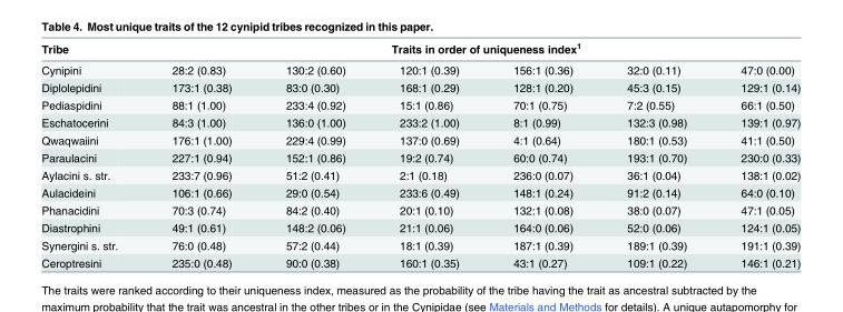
<table><thead><tr><td rowspan="2">Tribe Cynipini</td><td colspan="6">Traits in order of uniqueness index<sup>1</sup></td></tr><tr><td>28:2 (0.83)</td><td>130:2 (0.60)</td><td>120:1 (0.39)</td><td>156:1 (0.36)</td><td>32:0 (0.11)</td><td>47:0 (0.00)</td></tr></thead><tbody><tr><td>Diplolepidini</td><td>173:1 (0.38)</td><td>83:0 (0.30)</td><td>168:1 (0.29)</td><td>128:1 (0.20)</td><td>45:3 (0.15)</td><td>129:1 (0.14)</td></tr><tr><td>Pediaspidini</td><td>88:1 (1.00)</td><td>233:4 (0.92)</td><td>15:1 (0.86)</td><td>70:1 (0.75)</td><td>7:2 (0.55)</td><td>66:1 (0.50)</td></tr><tr><td>Eschatocerini</td><td>84:3 (1.00)</td><td>136:0 (1.00)</td><td>233:2 (1.00)</td><td>8:1 (0.99)</td><td>132:3 (0.98)</td><td>139:1 (0.97)</td></tr><tr><td>Qwaqwaiini</td><td>176:1 (1.00)</td><td>229:4 (0.99)</td><td>137:0 (0.69)</td><td>4:1 (0.64)</td><td>180:1 (0.53)</td><td>41:1 (0.50)</td></tr><tr><td>Paraulacini</td><td>227:1 (0.94)</td><td>152:1 (0.86)</td><td>19:2 (0.74)</td><td>60:0 (0.74)</td><td>193:1 (0.70)</td><td>230:0 (0.33)</td></tr><tr><td>Aylacini s. str.</td><td>233:7 (0.96)</td><td>51:2 (0.41)</td><td>2:1 (0.18)</td><td>236:0 (0.07)</td><td>36:1 (0.04)</td><td>138:1 (0.02)</td></tr><tr><td>Aulacideini</td><td>106:1 (0.66)</td><td>29:0 (0.54)</td><td>233:6 (0.49)</td><td>148:1 (0.24)</td><td>91:2 (0.14)</td><td>64:0 (0.10)</td></tr><tr><td>Phanacidini</td><td>70:3 (0.74)</td><td>84:2 (0.40)</td><td>20:1 (0.10)</td><td>132:1 (0.08)</td><td>38:0 (0.07)</td><td>47:1 (0.05)</td></tr><tr><td>Diastrophini</td><td>49:1 (0.61)</td><td>148:2 (0.06)</td><td>21:1 (0.06)</td><td>164:0 (0.06)</td><td>52:0 (0.06)</td><td>124:1 (0.05)</td></tr><tr><td>Synergini s. str.</td><td>76:0 (0.48)</td><td>57:2 (0.44)</td><td>18:1 (0.39)</td><td>187:1 (0.39)</td><td>189:1 (0.39)</td><td>191:1 (0.39)</td></tr><tr><td>Ceroptresini</td><td>235:0 (0.48)</td><td>90:0 (0.38)</td><td>160:1 (0.35)</td><td>43:1 (0.27)</td><td>109:1 (0.22)</td><td>146:1 (0.21)</td></tr></tbody></table>